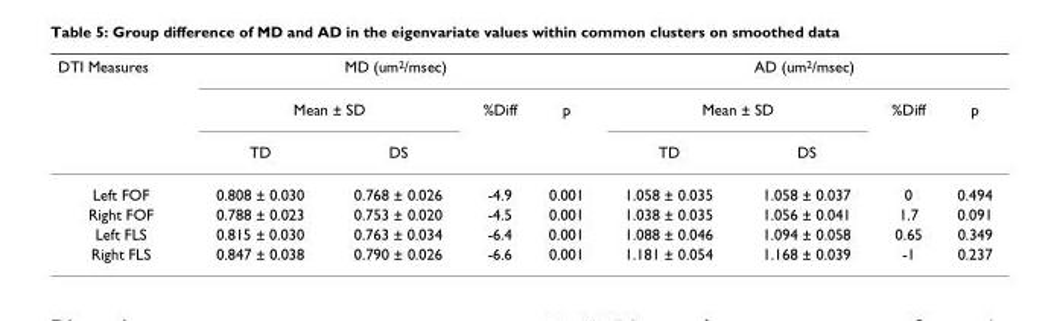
<table><thead><tr><td rowspan="3">DTI Measures</td><td colspan="4">MD (um<sup>2</sup>/msec)</td><td colspan="4">AD (um<sup>2</sup>/msec)</td></tr><tr><td colspan="2">Mean ± SD</td><td rowspan="2">%Diff</td><td rowspan="2">p</td><td colspan="2">Mean ± SD</td><td rowspan="2">%Diff</td><td rowspan="2">p</td></tr><tr><td>TD</td><td>DS</td><td>TD</td><td>DS</td></tr></thead><tbody><tr><td>Left FOF</td><td>0.808 ± 0.030</td><td>0.768 ± 0.026</td><td>-4.9</td><td>0.001</td><td>1.058 ± 0.035</td><td>1.058 ± 0.037</td><td>0</td><td>0.494</td></tr><tr><td>Right FOF</td><td>0.788 ± 0.023</td><td>0.753 ± 0.020</td><td>-4.5</td><td>0.001</td><td>1.038 ± 0.035</td><td>1.056 ± 0.041</td><td>1.7</td><td>0.091</td></tr><tr><td>Left FLS</td><td>0.815 ± 0.030</td><td>0.763 ± 0.034</td><td>-6.4</td><td>0.001</td><td>1.088 ± 0.046</td><td>1.094 ± 0.058</td><td>0.65</td><td>0.349</td></tr><tr><td>Right FLS</td><td>0.847 ± 0.038</td><td>0.790 ± 0.026</td><td>-6.6</td><td>0.001</td><td>1.181 ± 0.054</td><td>1.168 ± 0.039</td><td>-1</td><td>0.237</td></tr></tbody></table>